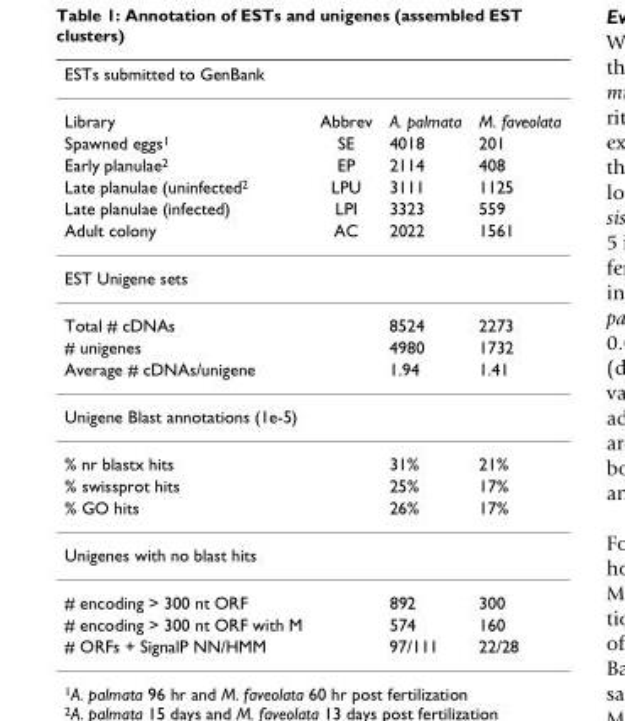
<table><thead><tr><td colspan="4">ESTs submitted to GenBank</td></tr><tr><td>Library</td><td>Abbrev</td><td>A. palmata</td><td>M. faveolata</td></tr></thead><tbody><tr><td>Spawned eggs<sup>1</sup></td><td>SE</td><td>4018</td><td>201</td></tr><tr><td>Early planulae<sup>2</sup></td><td>EP</td><td>2114</td><td>408</td></tr><tr><td>Late planulae (uninfected<sup>2</sup></td><td>LPU</td><td>3111</td><td>1125</td></tr><tr><td>Late planulae (infected)</td><td>LPI</td><td>3323</td><td>559</td></tr><tr><td>Adult colony</td><td>AC</td><td>2022</td><td>1561</td></tr><tr><td colspan="4">EST Unigene sets</td></tr><tr><td>Total # cDNAs</td><td></td><td>8524</td><td>2273</td></tr><tr><td># unigenes</td><td></td><td>4980</td><td>1732</td></tr><tr><td>Average # cDNAs/unigene</td><td></td><td>1.94</td><td>1.41</td></tr><tr><td colspan="4">Unigene Blast annotations (1e-5)</td></tr><tr><td>% nr blastx hits</td><td></td><td>31%</td><td>21%</td></tr><tr><td>% swissprot hits</td><td></td><td>25%</td><td>17%</td></tr><tr><td>% GO hits</td><td></td><td>26%</td><td>17%</td></tr><tr><td colspan="4">Unigenes with no blast hits</td></tr><tr><td># encoding &gt; 300 nt ORF</td><td></td><td>892</td><td>300</td></tr><tr><td># encoding &gt; 300 nt ORF with M</td><td></td><td>574</td><td>160</td></tr><tr><td># ORFs + SignalP NN/HMM</td><td></td><td>97/111</td><td>22/28</td></tr></tbody></table>